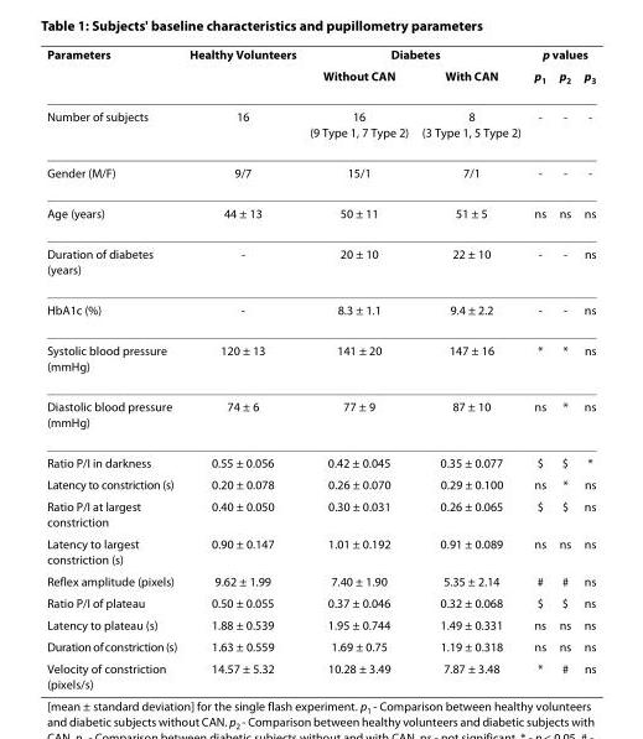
<table><thead><tr><td rowspan="2">Parameters</td><td rowspan="2">Healthy Volunteers</td><td colspan="2">Diabetes</td><td colspan="3">p values</td></tr><tr><td>Without CAN</td><td>With CAN</td><td>p<sub>1</sub></td><td>p<sub>2</sub></td><td>p<sub>3</sub></td></tr></thead><tbody><tr><td>Number of subjects</td><td>16</td><td>16 (9 Type 1, 7 Type 2)</td><td>8 (3 Type 1, 5 Type 2)</td><td>-</td><td>-</td><td>-</td></tr><tr><td>Gender (M/F)</td><td>9/7</td><td>15/1</td><td>7/1</td><td>-</td><td>-</td><td>-</td></tr><tr><td>Age (years)</td><td>44 ± 13</td><td>50 ± 11</td><td>51 ± 5</td><td>ns</td><td>ns</td><td>ns</td></tr><tr><td>Duration of diabetes (years)</td><td>-</td><td>20 ± 10</td><td>22 ± 10</td><td>-</td><td>-</td><td>ns</td></tr><tr><td>HbA1c (%)</td><td>-</td><td>8.3 ± 1.1</td><td>9.4 ± 2.2</td><td>-</td><td>-</td><td>ns</td></tr><tr><td>Systolic blood pressure (mmHg)</td><td>120 ± 13</td><td>141 ± 20</td><td>147 ± 16</td><td>*</td><td>*</td><td>ns</td></tr><tr><td>Diastolic blood pressure (mmHg)</td><td>74 ± 6</td><td>77 ± 9</td><td>87 ± 10</td><td>ns</td><td>*</td><td>ns</td></tr><tr><td>Ratio P/I in darkness</td><td>0.55 ± 0.056</td><td>0.42 ± 0.045</td><td>0.35 ± 0.077</td><td>$</td><td>$</td><td>*</td></tr><tr><td>Latency to constriction (s)</td><td>0.20 ± 0.078</td><td>0.26 ± 0.070</td><td>0.29 ± 0.100</td><td>ns</td><td>*</td><td>ns</td></tr><tr><td>Ratio P/I at largest constriction</td><td>0.40 ± 0.050</td><td>0.30 ± 0.031</td><td>0.26 ± 0.065</td><td>$</td><td>$</td><td>ns</td></tr><tr><td>Latency to largest constriction (s)</td><td>0.90 ± 0.147</td><td>1.01 ± 0.192</td><td>0.91 ± 0.089</td><td>ns</td><td>ns</td><td>ns</td></tr><tr><td>Reflex amplitude (pixels)</td><td>9.62 ± 1.99</td><td>7.40 ± 1.90</td><td>5.35 ± 2.14</td><td>#</td><td>#</td><td>ns</td></tr><tr><td>Ratio P/I of plateau</td><td>0.50 ± 0.055</td><td>0.37 ± 0.046</td><td>0.32 ± 0.068</td><td>$</td><td>$</td><td>ns</td></tr><tr><td>Latency to plateau (s)</td><td>1.88 ± 0.539</td><td>1.95 ± 0.744</td><td>1.49 ± 0.331</td><td>ns</td><td>ns</td><td>ns</td></tr><tr><td>Duration of constriction (s)</td><td>1.63 ± 0.559</td><td>1.69 ± 0.75</td><td>1.19 ± 0.318</td><td>ns</td><td>ns</td><td>ns</td></tr><tr><td>Velocity of constriction (pixels/s)</td><td>14.57 ± 5.32</td><td>10.28 ± 3.49</td><td>7.87 ± 3.48</td><td>*</td><td>#</td><td>ns</td></tr></tbody></table>